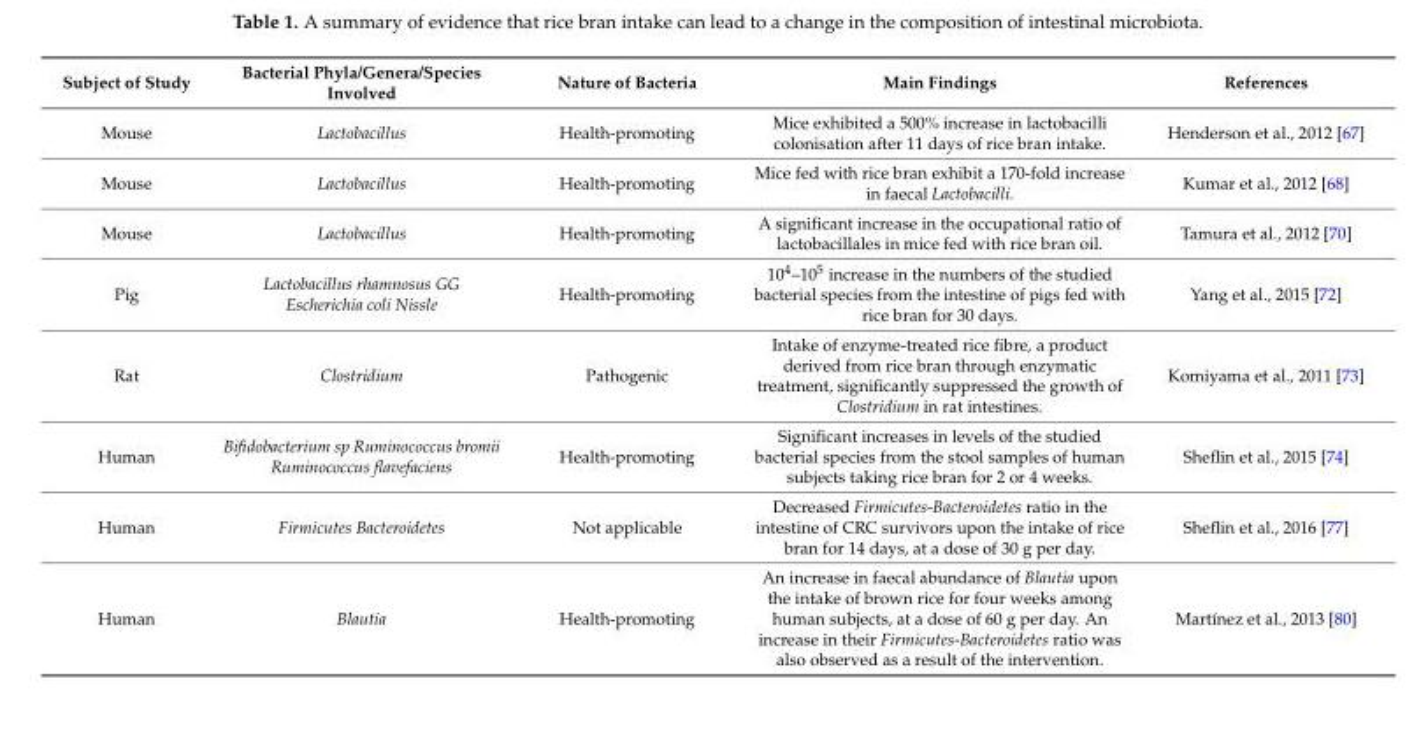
<table><thead><tr><td>Subject of Study</td><td>Bacterial Phyla/Genera/Species Involved</td><td>Nature of Bacteria</td><td>Main Findings</td><td>References</td></tr></thead><tbody><tr><td>Mouse</td><td>Lactobacillus</td><td>Health-promoting</td><td>Mice exhibited a 500% increase in lactobacilli colonisation after 11 days of rice bran intake.</td><td>Henderson et al., 2012 [67]</td></tr><tr><td>Mouse</td><td>Lactobacillus</td><td>Health-promoting</td><td>Mice fed with rice bran exhibit a 170-fold increase in faecal Lactobacilli.</td><td>Kumar et al., 2012 [68]</td></tr><tr><td>Mouse</td><td>Lactobacillus</td><td>Health-promoting</td><td>A significant increase in the occupational ratio of lactobacillales in mice fed with rice bran oil.</td><td>Tamura et al., 2012 [70]</td></tr><tr><td>Pig</td><td>Lactobacillus rhamnosus GG Escherichia coli Nissle</td><td>Health-promoting</td><td>10<sup>4</sup>–10<sup>5</sup> increase in the numbers of the studied bacterial species from the intestine of pigs fed with rice bran for 30 days.</td><td>Yang et al., 2015 [72]</td></tr><tr><td>Rat</td><td>Clostridium</td><td>Pathogenic</td><td>Intake of enzyme-treated rice fibre, a product derived from rice bran through enzymatic treatment, significantly suppressed the growth of Clostridium in rat intestines.</td><td>Komiyama et al., 2011 [73]</td></tr><tr><td>Human</td><td>Bifidobacterium sp Ruminococcus bromii Ruminococcus flavefaciens</td><td>Health-promoting</td><td>Significant increases in levels of the studied bacterial species from the stool samples of human subjects taking rice bran for 2 or 4 weeks.</td><td>Sheflin et al., 2015 [74]</td></tr><tr><td>Human</td><td>Firmicutes Bacteroidetes</td><td>Not applicable</td><td>Decreased Firmicutes-Bacteroidetes ratio in the intestine of CRC survivors upon the intake of rice bran for 14 days, at a dose of 30 g per day.</td><td>Sheflin et al., 2016 [77]</td></tr><tr><td>Human</td><td>Blautia</td><td>Health-promoting</td><td>An increase in faecal abundance of Blautia upon the intake of brown rice for four weeks among human subjects, at a dose of 60 g per day. An increase in their Firmicutes-Bacteroidetes ratio was also observed as a result of the intervention.</td><td>Martínez et al., 2013 [80]</td></tr></tbody></table>